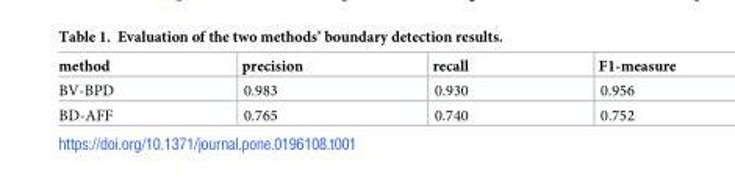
<table><thead><tr><td>method</td><td>precision</td><td>recall</td><td>F1-measure</td></tr></thead><tbody><tr><td>BV-BPD</td><td>0.983</td><td>0.930</td><td>0.956</td></tr><tr><td>BD-AFF</td><td>0.765</td><td>0.740</td><td>0.752</td></tr></tbody></table>